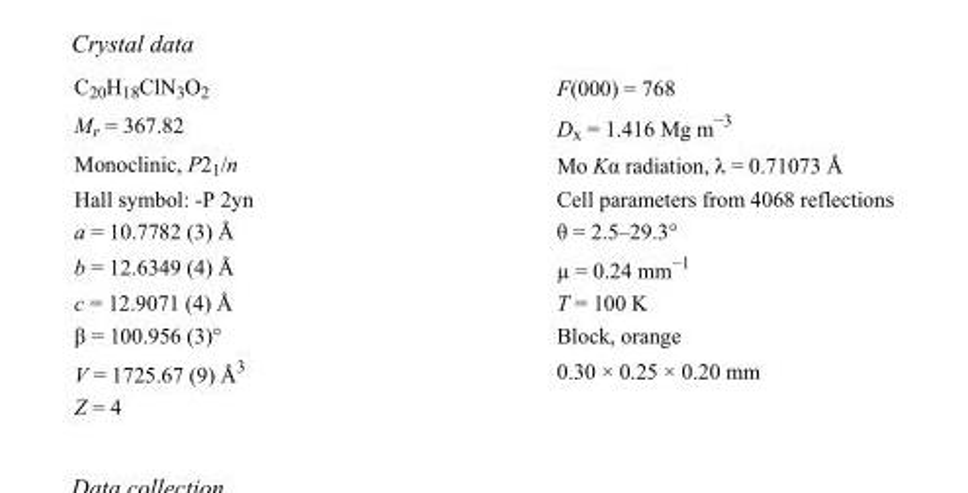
<table><tbody><tr><td>C<sub>20</sub>H<sub>18</sub>ClN<sub>3</sub>O<sub>2</sub></td><td>F(000) = 768</td></tr><tr><td>M<sub>r</sub> = 367.82</td><td>D<sub>x</sub> = 1.416 Mg m<sup>−3</sup></td></tr><tr><td>Monoclinic, P2<sub>1</sub>/n</td><td>Mo Kα radiation, λ = 0.71073 Å</td></tr><tr><td>Hall symbol: -P 2yn</td><td>Cell parameters from 4068 reflections</td></tr><tr><td>a = 10.7782 (3) Å</td><td>θ = 2.5–29.3°</td></tr><tr><td>b = 12.6349 (4) Å</td><td>µ = 0.24 mm<sup>−1</sup></td></tr><tr><td>c = 12.9071 (4) Å</td><td>T = 100 K</td></tr><tr><td>β = 100.956 (3)°</td><td>Block, orange</td></tr><tr><td>V = 1725.67 (9) Å<sup>3</sup></td><td>0.30 × 0.25 × 0.20 mm</td></tr><tr><td>Z = 4</td><td></td></tr></tbody></table>